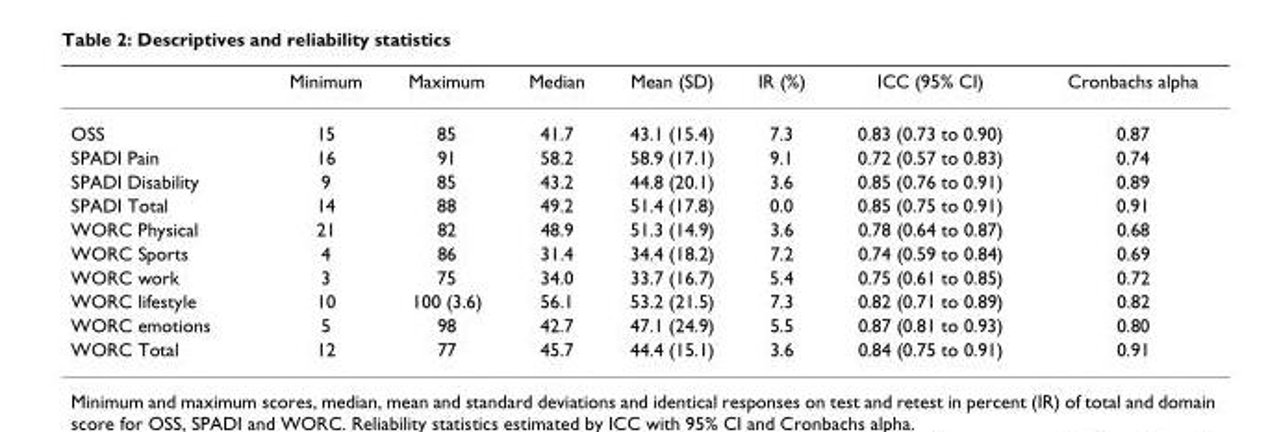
<table><thead><tr><td></td><td>Minimum</td><td>Maximum</td><td>Median</td><td>Mean (SD)</td><td>IR (%)</td><td>ICC (95% CI)</td><td>Cronbachs alpha</td></tr></thead><tbody><tr><td>OSS</td><td>15</td><td>85</td><td>41.7</td><td>43.1 (15.4)</td><td>7.3</td><td>0.83 (0.73 to 0.90)</td><td>0.87</td></tr><tr><td>SPADI Pain</td><td>16</td><td>91</td><td>58.2</td><td>58.9 (17.1)</td><td>9.1</td><td>0.72 (0.57 to 0.83)</td><td>0.74</td></tr><tr><td>SPADI Disability</td><td>9</td><td>85</td><td>43.2</td><td>44.8 (20.1)</td><td>3.6</td><td>0.85 (0.76 to 0.91)</td><td>0.89</td></tr><tr><td>SPADI Total</td><td>14</td><td>88</td><td>49.2</td><td>51.4 (17.8)</td><td>0.0</td><td>0.85 (0.75 to 0.91)</td><td>0.91</td></tr><tr><td>WORC Physical</td><td>21</td><td>82</td><td>48.9</td><td>51.3 (14.9)</td><td>3.6</td><td>0.78 (0.64 to 0.87)</td><td>0.68</td></tr><tr><td>WORC Sports</td><td>4</td><td>86</td><td>31.4</td><td>34.4 (18.2)</td><td>7.2</td><td>0.74 (0.59 to 0.84)</td><td>0.69</td></tr><tr><td>WORC work</td><td>3</td><td>75</td><td>34.0</td><td>33.7 (16.7)</td><td>5.4</td><td>0.75 (0.61 to 0.85)</td><td>0.72</td></tr><tr><td>WORC lifestyle</td><td>10</td><td>100 (3.6)</td><td>56.1</td><td>53.2 (21.5)</td><td>7.3</td><td>0.82 (0.71 to 0.89)</td><td>0.82</td></tr><tr><td>WORC emotions</td><td>5</td><td>98</td><td>42.7</td><td>47.1 (24.9)</td><td>5.5</td><td>0.87 (0.81 to 0.93)</td><td>0.80</td></tr><tr><td>WORC Total</td><td>12</td><td>77</td><td>45.7</td><td>44.4 (15.1)</td><td>3.6</td><td>0.84 (0.75 to 0.91)</td><td>0.91</td></tr></tbody></table>